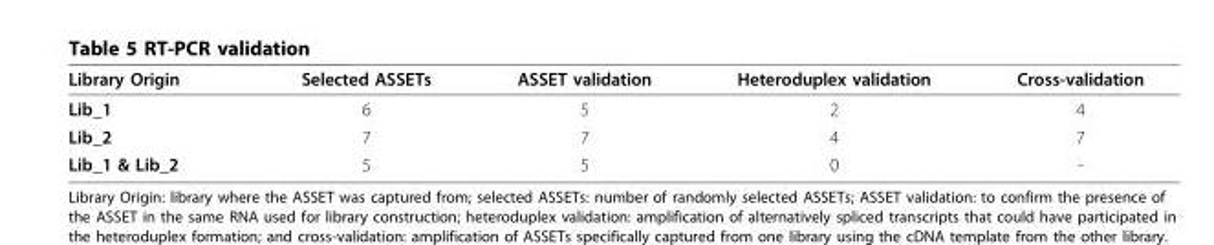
<table><thead><tr><td>Library Origin</td><td>Selected ASSETs</td><td>ASSET validation</td><td>Heteroduplex validation</td><td>Cross-validation</td></tr></thead><tbody><tr><td>Lib_1</td><td>6</td><td>5</td><td>2</td><td>4</td></tr><tr><td>Lib_2</td><td>7</td><td>7</td><td>4</td><td>7</td></tr><tr><td>Lib_1 &amp; Lib_2</td><td>5</td><td>5</td><td>0</td><td>-</td></tr></tbody></table>